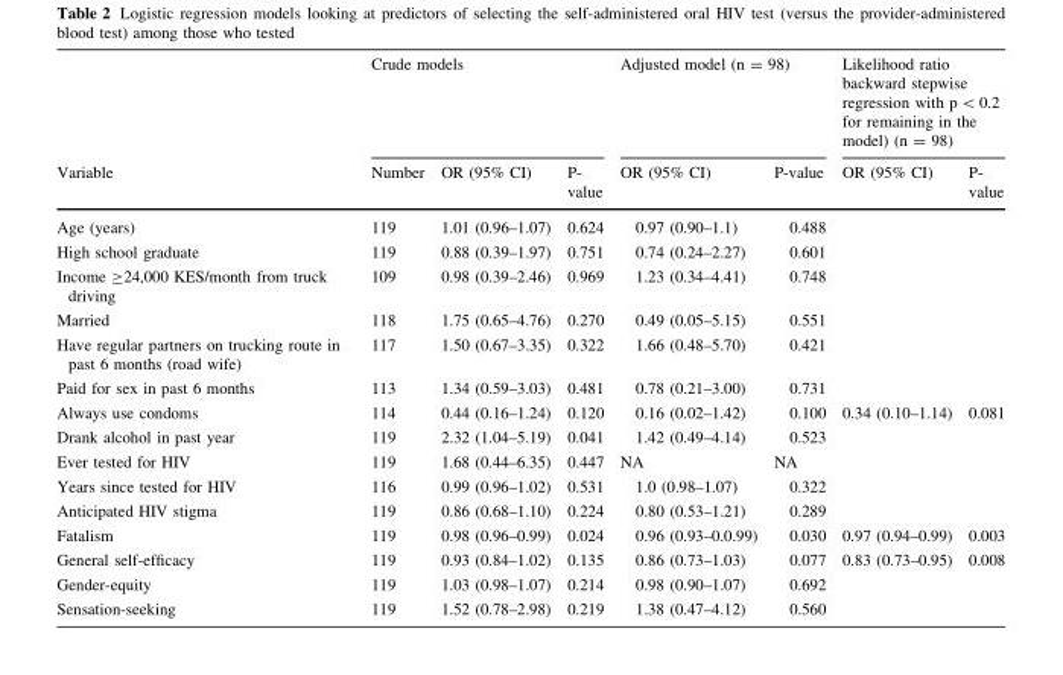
<table><thead><tr><td rowspan="2">Variable</td><td colspan="3">Crude models</td><td colspan="2">Adjusted model (n = 98)</td><td colspan="2">Likelihood ratio backward stepwise regression with p &lt; 0.2 for remaining in the model) (n = 98)</td></tr><tr><td>Number</td><td>OR (95% CI)</td><td>P- value</td><td>OR (95% CI)</td><td>P-value</td><td>OR (95% CI)</td><td>P- value</td></tr></thead><tbody><tr><td>Age (years)</td><td>119</td><td>1.01 (0.96–1.07)</td><td>0.624</td><td>0.97 (0.90–1.1)</td><td>0.488</td><td></td><td></td></tr><tr><td>High school graduate</td><td>119</td><td>0.88 (0.39–1.97)</td><td>0.751</td><td>0.74 (0.24–2.27)</td><td>0.601</td><td></td><td></td></tr><tr><td>Income ≥24,000 KES/month from truck driving</td><td>109</td><td>0.98 (0.39–2.46)</td><td>0.969</td><td>1.23 (0.34–4.41)</td><td>0.748</td><td></td><td></td></tr><tr><td>Married</td><td>118</td><td>1.75 (0.65–4.76)</td><td>0.270</td><td>0.49 (0.05–5.15)</td><td>0.551</td><td></td><td></td></tr><tr><td>Have regular partners on trucking route in past 6 months (road wife)</td><td>117</td><td>1.50 (0.67–3.35)</td><td>0.322</td><td>1.66 (0.48–5.70)</td><td>0.421</td><td></td><td></td></tr><tr><td>Paid for sex in past 6 months</td><td>113</td><td>1.34 (0.59–3.03)</td><td>0.481</td><td>0.78 (0.21–3.00)</td><td>0.731</td><td></td><td></td></tr><tr><td>Always use condoms</td><td>114</td><td>0.44 (0.16–1.24)</td><td>0.120</td><td>0.16 (0.02–1.42)</td><td>0.100</td><td>0.34 (0.10–1.14)</td><td>0.081</td></tr><tr><td>Drank alcohol in past year</td><td>119</td><td>2.32 (1.04–5.19)</td><td>0.041</td><td>1.42 (0.49–4.14)</td><td>0.523</td><td></td><td></td></tr><tr><td>Ever tested for HIV</td><td>119</td><td>1.68 (0.44–6.35)</td><td>0.447</td><td>NA</td><td>NA</td><td></td><td></td></tr><tr><td>Years since tested for HIV</td><td>116</td><td>0.99 (0.96–1.02)</td><td>0.531</td><td>1.0 (0.98–1.07)</td><td>0.322</td><td></td><td></td></tr><tr><td>Anticipated HIV stigma</td><td>119</td><td>0.86 (0.68–1.10)</td><td>0.224</td><td>0.80 (0.53–1.21)</td><td>0.289</td><td></td><td></td></tr><tr><td>Fatalism</td><td>119</td><td>0.98 (0.96–0.99)</td><td>0.024</td><td>0.96 (0.93–0.0.99)</td><td>0.030</td><td>0.97 (0.94–0.99)</td><td>0.003</td></tr><tr><td>General self-efficacy</td><td>119</td><td>0.93 (0.84–1.02)</td><td>0.135</td><td>0.86 (0.73–1.03)</td><td>0.077</td><td>0.83 (0.73–0.95)</td><td>0.008</td></tr><tr><td>Gender-equity</td><td>119</td><td>1.03 (0.98–1.07)</td><td>0.214</td><td>0.98 (0.90–1.07)</td><td>0.692</td><td></td><td></td></tr><tr><td>Sensation-seeking</td><td>119</td><td>1.52 (0.78–2.98)</td><td>0.219</td><td>1.38 (0.47–4.12)</td><td>0.560</td><td></td><td></td></tr></tbody></table>